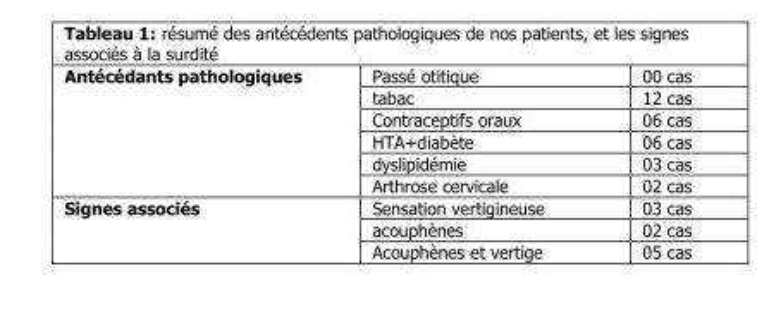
<table><tbody><tr><td rowspan="6">Antécédants pathologiques</td><td>Passé otitique</td><td>00 cas</td></tr><tr><td>tabac</td><td>12 cas</td></tr><tr><td>Contraceptifs oraux</td><td>06 cas</td></tr><tr><td>HTA+diabète</td><td>06 cas</td></tr><tr><td>dyslipidémie</td><td>03 cas</td></tr><tr><td>Arthrose cervicale</td><td>02 cas</td></tr><tr><td rowspan="3">Signes associés</td><td>Sensation vertigineuse</td><td>03 cas</td></tr><tr><td>acouphènes</td><td>02 cas</td></tr><tr><td>Acouphènes et vertige</td><td>05 cas</td></tr></tbody></table>